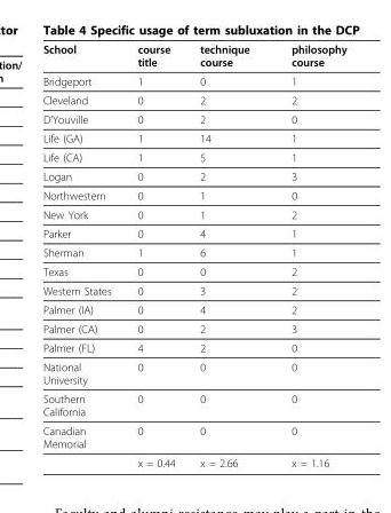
<table><thead><tr><td>School</td><td>course title</td><td>technique course</td><td>philosophy course</td></tr></thead><tbody><tr><td>Bridgeport</td><td>1</td><td>0</td><td>1</td></tr><tr><td>Cleveland</td><td>0</td><td>2</td><td>2</td></tr><tr><td>D’Youville</td><td>0</td><td>2</td><td>0</td></tr><tr><td>Life (GA)</td><td>1</td><td>14</td><td>1</td></tr><tr><td>Life (CA)</td><td>1</td><td>5</td><td>1</td></tr><tr><td>Logan</td><td>0</td><td>2</td><td>3</td></tr><tr><td>Northwestern</td><td>0</td><td>1</td><td>0</td></tr><tr><td>New York</td><td>0</td><td>1</td><td>2</td></tr><tr><td>Parker</td><td>0</td><td>4</td><td>1</td></tr><tr><td>Sherman</td><td>1</td><td>6</td><td>1</td></tr><tr><td>Texas</td><td>0</td><td>0</td><td>2</td></tr><tr><td>Western States</td><td>0</td><td>3</td><td>2</td></tr><tr><td>Palmer (IA)</td><td>0</td><td>4</td><td>2</td></tr><tr><td>Palmer (CA)</td><td>0</td><td>2</td><td>3</td></tr><tr><td>Palmer (FL)</td><td>4</td><td>2</td><td>0</td></tr><tr><td>National University</td><td>0</td><td>0</td><td>0</td></tr><tr><td>Southern California</td><td>0</td><td>0</td><td>0</td></tr><tr><td rowspan="2">Canadian Memorial</td><td>0</td><td>0</td><td>0</td></tr><tr><td>x = 0.44</td><td>x = 2.66</td><td>x = 1.16</td></tr></tbody></table>